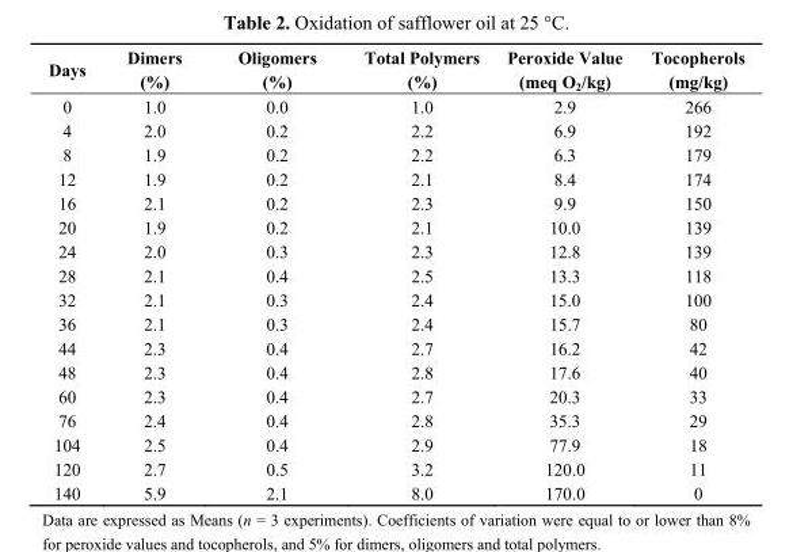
<table><thead><tr><td>Days</td><td>Dimers (%)</td><td>Oligomers (%)</td><td>Total Polymers (%)</td><td>Peroxide Value (meq O<sub>2</sub>/kg)</td><td>Tocopherols (mg/kg)</td></tr></thead><tbody><tr><td>0</td><td>1.0</td><td>0.0</td><td>1.0</td><td>2.9</td><td>266</td></tr><tr><td>4</td><td>2.0</td><td>0.2</td><td>2.2</td><td>6.9</td><td>192</td></tr><tr><td>8</td><td>1.9</td><td>0.2</td><td>2.2</td><td>6.3</td><td>179</td></tr><tr><td>12</td><td>1.9</td><td>0.2</td><td>2.1</td><td>8.4</td><td>174</td></tr><tr><td>16</td><td>2.1</td><td>0.2</td><td>2.3</td><td>9.9</td><td>150</td></tr><tr><td>20</td><td>1.9</td><td>0.2</td><td>2.1</td><td>10.0</td><td>139</td></tr><tr><td>24</td><td>2.0</td><td>0.3</td><td>2.3</td><td>12.8</td><td>139</td></tr><tr><td>28</td><td>2.1</td><td>0.4</td><td>2.5</td><td>13.3</td><td>118</td></tr><tr><td>32</td><td>2.1</td><td>0.3</td><td>2.4</td><td>15.0</td><td>100</td></tr><tr><td>36</td><td>2.1</td><td>0.3</td><td>2.4</td><td>15.7</td><td>80</td></tr><tr><td>44</td><td>2.3</td><td>0.4</td><td>2.7</td><td>16.2</td><td>42</td></tr><tr><td>48</td><td>2.3</td><td>0.4</td><td>2.8</td><td>17.6</td><td>40</td></tr><tr><td>60</td><td>2.3</td><td>0.4</td><td>2.7</td><td>20.3</td><td>33</td></tr><tr><td>76</td><td>2.4</td><td>0.4</td><td>2.8</td><td>35.3</td><td>29</td></tr><tr><td>104</td><td>2.5</td><td>0.4</td><td>2.9</td><td>77.9</td><td>18</td></tr><tr><td>120</td><td>2.7</td><td>0.5</td><td>3.2</td><td>120.0</td><td>11</td></tr><tr><td>140</td><td>5.9</td><td>2.1</td><td>8.0</td><td>170.0</td><td>0</td></tr></tbody></table>